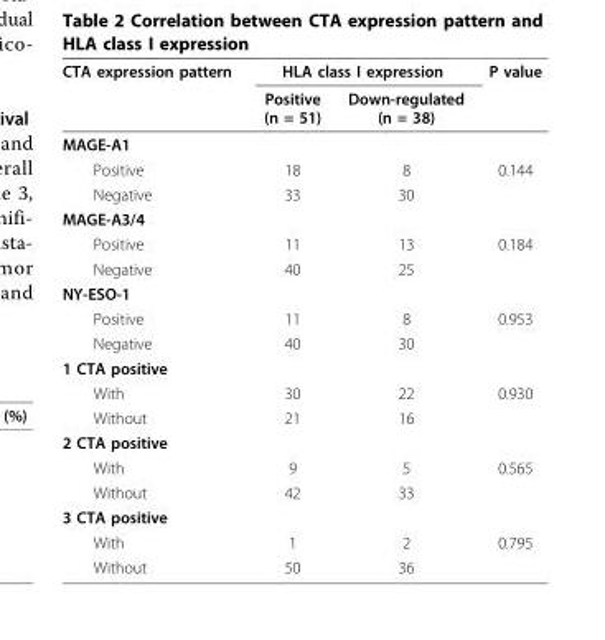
<table><thead><tr><td rowspan="2">CTA expression pattern</td><td colspan="2">HLA class I expression</td><td rowspan="2">P value</td></tr><tr><td>Positive (n = 51)</td><td>Down-regulated (n = 38)</td></tr></thead><tbody><tr><td colspan="4">MAGE-A1</td></tr><tr><td>Positive</td><td>18</td><td>8</td><td>0.144</td></tr><tr><td>Negative</td><td>33</td><td>30</td><td></td></tr><tr><td colspan="4">MAGE-A3/4</td></tr><tr><td>Positive</td><td>11</td><td>13</td><td>0.184</td></tr><tr><td>Negative</td><td>40</td><td>25</td><td></td></tr><tr><td colspan="4">NY-ESO-1</td></tr><tr><td>Positive</td><td>11</td><td>8</td><td>0.953</td></tr><tr><td>Negative</td><td>40</td><td>30</td><td></td></tr><tr><td colspan="4">1 CTA positive</td></tr><tr><td>With</td><td>30</td><td>22</td><td>0.930</td></tr><tr><td>Without</td><td>21</td><td>16</td><td></td></tr><tr><td colspan="4">2 CTA positive</td></tr><tr><td>With</td><td>9</td><td>5</td><td>0.565</td></tr><tr><td>Without</td><td>42</td><td>33</td><td></td></tr><tr><td colspan="4">3 CTA positive</td></tr><tr><td>With</td><td>1</td><td>2</td><td>0.795</td></tr><tr><td>Without</td><td>50</td><td>36</td><td></td></tr></tbody></table>